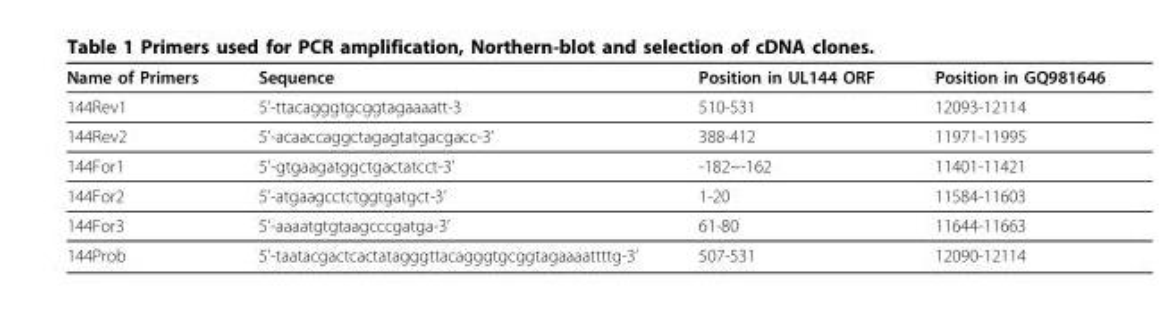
<table><thead><tr><td>Name of Primers</td><td>Sequence</td><td>Position in UL144 ORF</td><td>Position in GQ981646</td></tr></thead><tbody><tr><td>144Rev1</td><td>5’-ttacagggtgcggtagaaaatt-3</td><td>510-531</td><td>12093-12114</td></tr><tr><td>144Rev2</td><td>5’-acaaccaggctagagtatgacgacc-3’</td><td>388-412</td><td>11971-11995</td></tr><tr><td>144For1</td><td>5’-gtgaagatggctgactatcct-3’</td><td>-182~-162</td><td>11401-11421</td></tr><tr><td>144For2</td><td>5’-atgaagcctctggtgatgct-3’</td><td>1-20</td><td>11584-11603</td></tr><tr><td>144For3</td><td>5’-aaaatgtgtaagcccgatga-3’</td><td>61-80</td><td>11644-11663</td></tr><tr><td>144Prob</td><td>5’-taatacgactcactatagggttacagggtgcggtagaaaattttg-3’</td><td>507-531</td><td>12090-12114</td></tr></tbody></table>